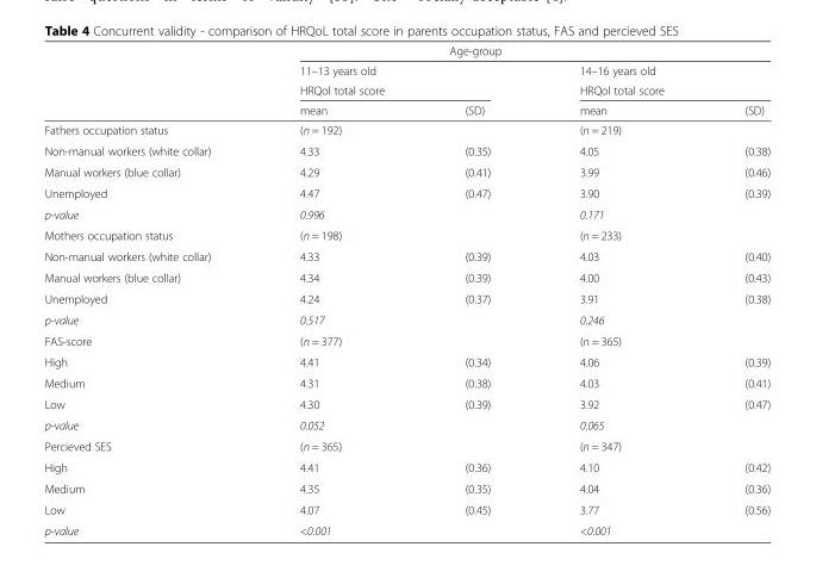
<table><thead><tr><td rowspan="4"></td><td colspan="4">Age-group</td></tr><tr><td>11–13 years old</td><td></td><td>14–16 years old</td><td></td></tr><tr><td colspan="2">HRQol total score</td><td colspan="2">HRQol total score</td></tr><tr><td>mean</td><td>(SD)</td><td>mean</td><td>(SD)</td></tr></thead><tbody><tr><td>Fathers occupation status</td><td>(n = 192)</td><td></td><td>(n = 219)</td><td></td></tr><tr><td>Non-manual workers (white collar)</td><td>4.33</td><td>(0.35)</td><td>4.05</td><td>(0.38)</td></tr><tr><td>Manual workers (blue collar)</td><td>4.29</td><td>(0.41)</td><td>3.99</td><td>(0.46)</td></tr><tr><td>Unemployed</td><td>4.47</td><td>(0.47)</td><td>3.90</td><td>(0.39)</td></tr><tr><td>p-value</td><td>0.996</td><td></td><td>0.171</td><td></td></tr><tr><td>Mothers occupation status</td><td>(n = 198)</td><td></td><td>(n = 233)</td><td></td></tr><tr><td>Non-manual workers (white collar)</td><td>4.33</td><td>(0.39)</td><td>4.03</td><td>(0.40)</td></tr><tr><td>Manual workers (blue collar)</td><td>4.34</td><td>(0.39)</td><td>4.00</td><td>(0.43)</td></tr><tr><td>Unemployed</td><td>4.24</td><td>(0.37)</td><td>3.91</td><td>(0.38)</td></tr><tr><td>p-value</td><td>0.517</td><td></td><td>0.246</td><td></td></tr><tr><td>FAS-score</td><td>(n = 377)</td><td></td><td>(n = 365)</td><td></td></tr><tr><td>High</td><td>4.41</td><td>(0.34)</td><td>4.06</td><td>(0.39)</td></tr><tr><td>Medium</td><td>4.31</td><td>(0.38)</td><td>4.03</td><td>(0.41)</td></tr><tr><td>Low</td><td>4.30</td><td>(0.39)</td><td>3.92</td><td>(0.47)</td></tr><tr><td>p-value</td><td>0.052</td><td></td><td>0.065</td><td></td></tr><tr><td>Percieved SES</td><td>(n = 365)</td><td></td><td>(n = 347)</td><td></td></tr><tr><td>High</td><td>4.41</td><td>(0.36)</td><td>4.10</td><td>(0.42)</td></tr><tr><td>Medium</td><td>4.35</td><td>(0.35)</td><td>4.04</td><td>(0.36)</td></tr><tr><td>Low</td><td>4.07</td><td>(0.45)</td><td>3.77</td><td>(0.56)</td></tr><tr><td>p-value</td><td>&lt;0.001</td><td></td><td>&lt;0.001</td><td></td></tr></tbody></table>